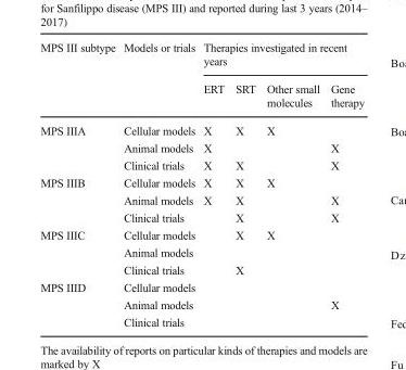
<table><thead><tr><td rowspan="2">MPS III subtype</td><td rowspan="2">Models or trials</td><td colspan="4">Therapies investigated in recent years</td></tr><tr><td>ERT</td><td>SRT</td><td>Other small molecules</td><td>Gene therapy</td></tr></thead><tbody><tr><td rowspan="3">MPS IIIA</td><td>Cellular models</td><td>X</td><td>X</td><td>X</td><td></td></tr><tr><td>Animal models</td><td>X</td><td></td><td></td><td>X</td></tr><tr><td>Clinical trials</td><td>X</td><td>X</td><td></td><td>X</td></tr><tr><td rowspan="3">MPS IIIB</td><td>Cellular models</td><td>X</td><td>X</td><td>X</td><td></td></tr><tr><td>Animal models</td><td>X</td><td>X</td><td></td><td>X</td></tr><tr><td>Clinical trials</td><td></td><td>X</td><td></td><td>X</td></tr><tr><td rowspan="3">MPS IIIC</td><td>Cellular models</td><td></td><td>X</td><td>X</td><td></td></tr><tr><td>Animal models</td><td></td><td></td><td></td><td></td></tr><tr><td>Clinical trials</td><td></td><td>X</td><td></td><td></td></tr><tr><td rowspan="3">MPS IIID</td><td>Cellular models</td><td></td><td></td><td></td><td></td></tr><tr><td>Animal models</td><td></td><td></td><td></td><td>X</td></tr><tr><td>Clinical trials</td><td></td><td></td><td></td><td></td></tr></tbody></table>